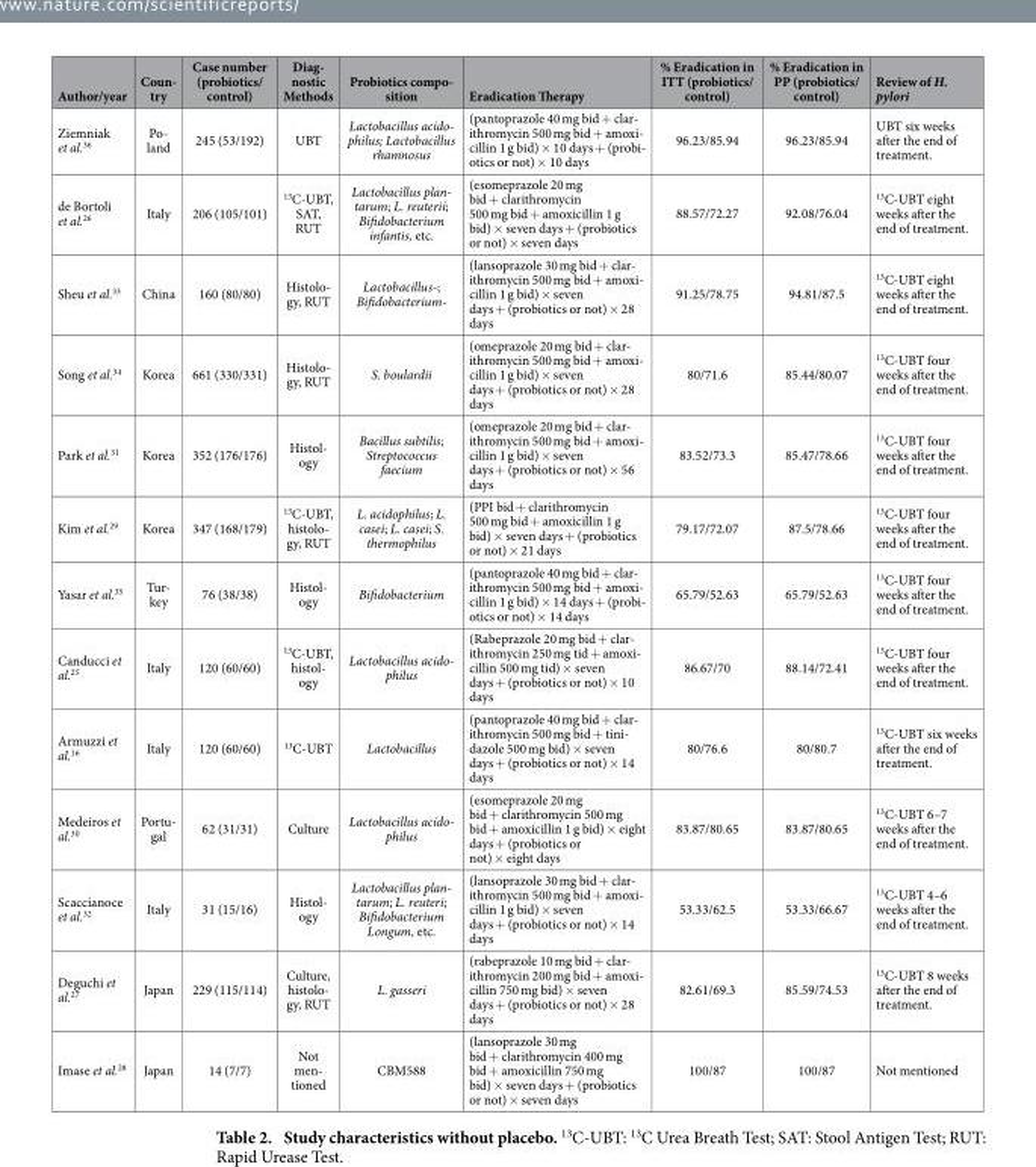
<table><thead><tr><td>Author/year</td><td>Coun- try</td><td>Case number (probiotics/ control)</td><td>Diag- nostic Methods</td><td>Probiotics compo- sition</td><td>Eradication Therapy</td><td>% Eradication in ITT (probiotics/ control)</td><td>% Eradication in PP (probiotics/ control)</td><td>Review of H. pylori</td></tr></thead><tbody><tr><td>Ziemniak et al.<sup>36</sup></td><td>Po- land</td><td>245 (53/192)</td><td>UBT</td><td>Lactobacillus acido- philus; Lactobacillus rhamnosus</td><td>(pantoprazole 40 mg bid + clar- ithromycin 500 mg bid + amoxi- cillin 1 g bid) × 10 days + (probi- otics or not) × 10 days</td><td>96.23/85.94</td><td>96.23/85.94</td><td>UBT six weeks after the end of treatment.</td></tr><tr><td>de Bortoli et al.<sup>26</sup></td><td>Italy</td><td>206 (105/101)</td><td><sup>13</sup>C-UBT, SAT, RUT</td><td>Lactobacillus plan- tarum; L. reuterii; Bifidobacterium infantis, etc.</td><td>(esomeprazole 20 mg bid + clarithromycin 500 mg bid + amoxicillin 1 g bid) × seven days + (probiotics or not) × seven days</td><td>88.57/72.27</td><td>92.08/76.04</td><td><sup>13</sup>C-UBT eight weeks after the end of treatment.</td></tr><tr><td>Sheu et al.<sup>33</sup></td><td>China</td><td>160 (80/80)</td><td>Histolo- gy, RUT</td><td>Lactobacillus-; Bifidobacterium-</td><td>(lansoprazole 30 mg bid + clar- ithromycin 500 mg bid + amoxi- cillin 1 g bid) × seven days + (probiotics or not) × 28 days</td><td>91.25/78.75</td><td>94.81/87.5</td><td><sup>13</sup>C-UBT eight weeks after the end of treatment.</td></tr><tr><td>Song et al.<sup>34</sup></td><td>Korea</td><td>661 (330/331)</td><td>Histolo- gy, RUT</td><td>S. boulardii</td><td>(omeprazole 20 mg bid + clar- ithromycin 500 mg bid + amoxi- cillin 1 g bid) × seven days + (probiotics or not) × 28 days</td><td>80/71.6</td><td>85.44/80.07</td><td><sup>13</sup>C-UBT four weeks after the end of treatment.</td></tr><tr><td>Park et al.<sup>31</sup></td><td>Korea</td><td>352 (176/176)</td><td>Histol- ogy</td><td>Bacillus subtilis; Streptococcus faecium</td><td>(omeprazole 20 mg bid + clar- ithromycin 500 mg bid + amoxi- cillin 1 g bid) × seven days + (probiotics or not) × 56 days</td><td>83.52/73.3</td><td>85.47/78.66</td><td><sup>13</sup>C-UBT four weeks after the end of treatment.</td></tr><tr><td>Kim et al.<sup>29</sup></td><td>Korea</td><td>347 (168/179)</td><td>13C-UBT, histolo- gy, RUT</td><td>L. acidophilus; L. casei; L. casei; S. thermophilus</td><td>(PPI bid + clarithromycin 500 mg bid + amoxicillin 1 g bid) × seven days + (probiotics or not) × 21 days</td><td>79.17/72.07</td><td>87.5/78.66</td><td><sup>13</sup>C-UBT four weeks after the end of treatment.</td></tr><tr><td>Yasar et al.<sup>35</sup></td><td>Tur- key</td><td>76 (38/38)</td><td>Histol- ogy</td><td>Bifidobacterium</td><td>(pantoprazole 40 mg bid + clar- ithromycin 500 mg bid + amoxi- cillin 1 g bid) × 14 days + (probi- otics or not) × 14 days</td><td>65.79/52.63</td><td>65.79/52.63</td><td><sup>13</sup>C-UBT four weeks after the end of treatment.</td></tr><tr><td>Canducci et al.<sup>25</sup></td><td>Italy</td><td>120 (60/60)</td><td>13C-UBT, histol- ogy</td><td>Lactobacillus acido- philus</td><td>(Rabeprazole 20 mg bid + clar- ithromycin 250 mg tid + amoxi- cillin 500 mg tid) × seven days + (probiotics or not) × 10 days</td><td>86.67/70</td><td>88.14/72.41</td><td><sup>13</sup>C-UBT four weeks after the end of treatment.</td></tr><tr><td>Armuzzi et al.<sup>16</sup></td><td>Italy</td><td>120 (60/60)</td><td><sup>13</sup>C-UBT</td><td>Lactobacillus</td><td>(pantoprazole 40 mg bid + clar- ithromycin 500 mg bid + tini- dazole 500 mg bid) × seven days + (probiotics or not) × 14 days</td><td>80/76.6</td><td>80/80.7</td><td><sup>13</sup>C-UBT six weeks after the end of treatment.</td></tr><tr><td>Medeiros et al.<sup>30</sup></td><td>Portu- gal</td><td>62 (31/31)</td><td>Culture</td><td>Lactobacillus acido- philus</td><td>(esomeprazole 20 mg bid + clarithromycin 500 mg bid + amoxicillin 1 g bid) × eight days + (probiotics or not) × eight days</td><td>83.87/80.65</td><td>83.87/80.65</td><td><sup>13</sup>C-UBT 6–7 weeks after the end of treatment.</td></tr><tr><td>Scaccianoce et al.<sup>32</sup></td><td>Italy</td><td>31 (15/16)</td><td>Histol- ogy</td><td>Lactobacillus plan- tarum; L. reuteri; Bifidobacterium Longum, etc.</td><td>(lansoprazole 30 mg bid + clar- ithromycin 500 mg bid + amoxi- cillin 1 g bid) × seven days + (probiotics or not) × 14 days</td><td>53.33/62.5</td><td>53.33/66.67</td><td><sup>13</sup>C-UBT 4–6 weeks after the end of treatment.</td></tr><tr><td>Deguchi et al.<sup>27</sup></td><td>Japan</td><td>229 (115/114)</td><td>Culture, histolo- gy, RUT</td><td>L. gasseri</td><td>(rabeprazole 10 mg bid + clar- ithromycin 200 mg bid + amoxi- cillin 750 mg bid) × seven days + (probiotics or not) × 28 days</td><td>82.61/69.3</td><td>85.59/74.53</td><td><sup>13</sup>C-UBT 8 weeks after the end of treatment.</td></tr><tr><td>Imase et al.<sup>28</sup></td><td>Japan</td><td>14 (7/7)</td><td>Not men- tioned</td><td>CBM588</td><td>(lansoprazole 30 mg bid + clarithromycin 400 mg bid + amoxicillin 750 mg bid) × seven days + (probiotics or not) × seven days</td><td>100/87</td><td>100/87</td><td>Not mentioned</td></tr></tbody></table>